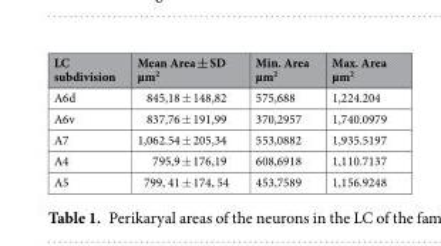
<table><thead><tr><td>LC subdivision</td><td>Mean Area ± SD µm<sup>2</sup></td><td>Min. Area µm<sup>2</sup></td><td>Max. Area µm<sup>2</sup></td></tr></thead><tbody><tr><td>A6d</td><td>845,18 ± 148,82</td><td>575,688</td><td>1,224.204</td></tr><tr><td>A6v</td><td>837,76 ± 191,99</td><td>370,2957</td><td>1,740.0979</td></tr><tr><td>A7</td><td>1,062.54 ± 205,34</td><td>553,0882</td><td>1,935.5197</td></tr><tr><td>A4</td><td>795,9 ± 176,19</td><td>608,6918</td><td>1,110.7137</td></tr><tr><td>A5</td><td>799, 41 ± 174, 54</td><td>453,7589</td><td>1,156.9248</td></tr></tbody></table>